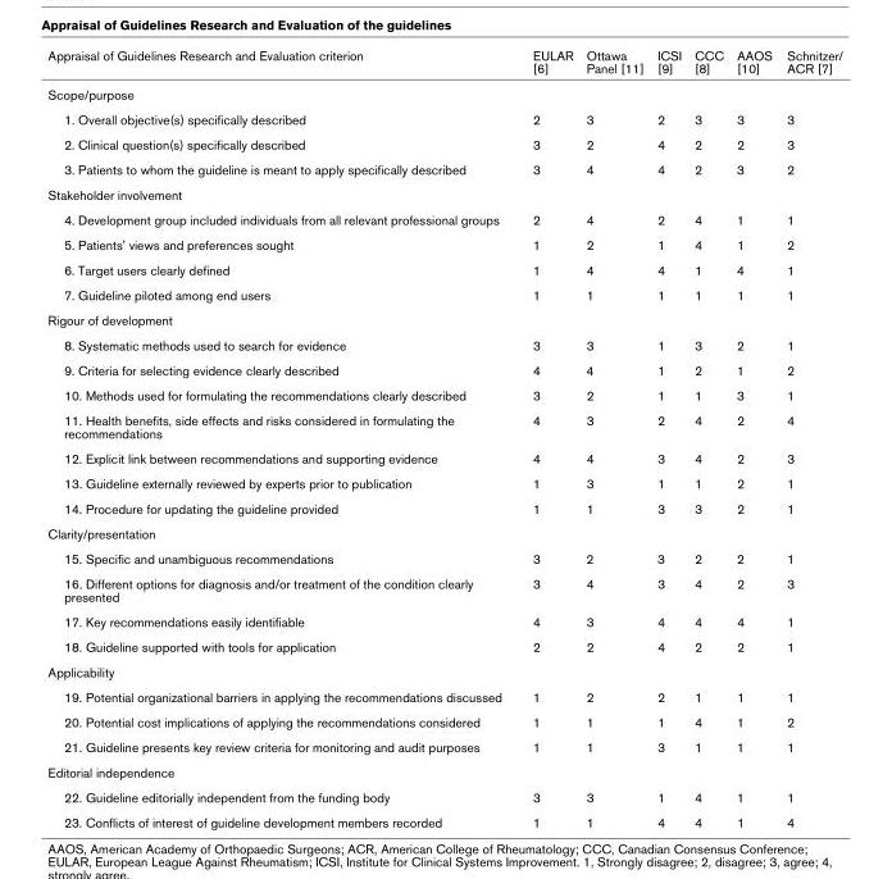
<table><thead><tr><td>Appraisal of Guidelines Research and Evaluation criterion</td><td>EULAR [6]</td><td>Ottawa Panel [11]</td><td>ICSI [9]</td><td>CCC [8]</td><td>AAOS [10]</td><td>Schnitzer/ ACR [7]</td></tr></thead><tbody><tr><td colspan="7">Scope/purpose</td></tr><tr><td>1. Overall objective(s) specifically described</td><td>2</td><td>3</td><td>2</td><td>3</td><td>3</td><td>3</td></tr><tr><td>2. Clinical question(s) specifically described</td><td>3</td><td>2</td><td>4</td><td>2</td><td>2</td><td>3</td></tr><tr><td>3. Patients to whom the guideline is meant to apply specifically described</td><td>3</td><td>4</td><td>4</td><td>2</td><td>3</td><td>2</td></tr><tr><td colspan="7">Stakeholder involvement</td></tr><tr><td>4. Development group included individuals from all relevant professional groups</td><td>2</td><td>4</td><td>2</td><td>4</td><td>1</td><td>1</td></tr><tr><td>5. Patients&#x27; views and preferences sought</td><td>1</td><td>2</td><td>1</td><td>4</td><td>1</td><td>2</td></tr><tr><td>6. Target users clearly defined</td><td>1</td><td>4</td><td>4</td><td>1</td><td>4</td><td>1</td></tr><tr><td>7. Guideline piloted among end users</td><td>1</td><td>1</td><td>1</td><td>1</td><td>1</td><td>1</td></tr><tr><td colspan="7">Rigour of development</td></tr><tr><td>8. Systematic methods used to search for evidence</td><td>3</td><td>3</td><td>1</td><td>3</td><td>2</td><td>1</td></tr><tr><td>9. Criteria for selecting evidence clearly described</td><td>4</td><td>4</td><td>1</td><td>2</td><td>1</td><td>2</td></tr><tr><td>10. Methods used for formulating the recommendations clearly described</td><td>3</td><td>2</td><td>1</td><td>1</td><td>3</td><td>1</td></tr><tr><td>11. Health benefits, side effects and risks considered in formulating the recommendations</td><td>4</td><td>3</td><td>2</td><td>4</td><td>2</td><td>4</td></tr><tr><td>12. Explicit link between recommendations and supporting evidence</td><td>4</td><td>4</td><td>3</td><td>4</td><td>2</td><td>3</td></tr><tr><td>13. Guideline externally reviewed by experts prior to publication</td><td>1</td><td>3</td><td>1</td><td>1</td><td>2</td><td>1</td></tr><tr><td>14. Procedure for updating the guideline provided</td><td>1</td><td>1</td><td>3</td><td>3</td><td>2</td><td>1</td></tr><tr><td colspan="7">Clarity/presentation</td></tr><tr><td>15. Specific and unambiguous recommendations</td><td>3</td><td>2</td><td>3</td><td>2</td><td>2</td><td>1</td></tr><tr><td>16. Different options for diagnosis and/or treatment of the condition clearly presented</td><td>3</td><td>4</td><td>3</td><td>4</td><td>2</td><td>3</td></tr><tr><td>17. Key recommendations easily identifiable</td><td>4</td><td>3</td><td>4</td><td>4</td><td>4</td><td>1</td></tr><tr><td>18. Guideline supported with tools for application</td><td>2</td><td>2</td><td>4</td><td>2</td><td>2</td><td>1</td></tr><tr><td colspan="7">Applicability</td></tr><tr><td>19. Potential organizational barriers in applying the recommendations discussed</td><td>1</td><td>2</td><td>2</td><td>1</td><td>1</td><td>1</td></tr><tr><td>20. Potential cost implications of applying the recommendations considered</td><td>1</td><td>1</td><td>1</td><td>4</td><td>1</td><td>2</td></tr><tr><td>21. Guideline presents key review criteria for monitoring and audit purposes</td><td>1</td><td>1</td><td>3</td><td>1</td><td>1</td><td>1</td></tr><tr><td colspan="7">Editorial independence</td></tr><tr><td>22. Guideline editorially independent from the funding body</td><td>3</td><td>3</td><td>1</td><td>4</td><td>1</td><td>1</td></tr><tr><td>23. Conflicts of interest of guideline development members recorded</td><td>1</td><td>1</td><td>4</td><td>4</td><td>1</td><td>4</td></tr></tbody></table>